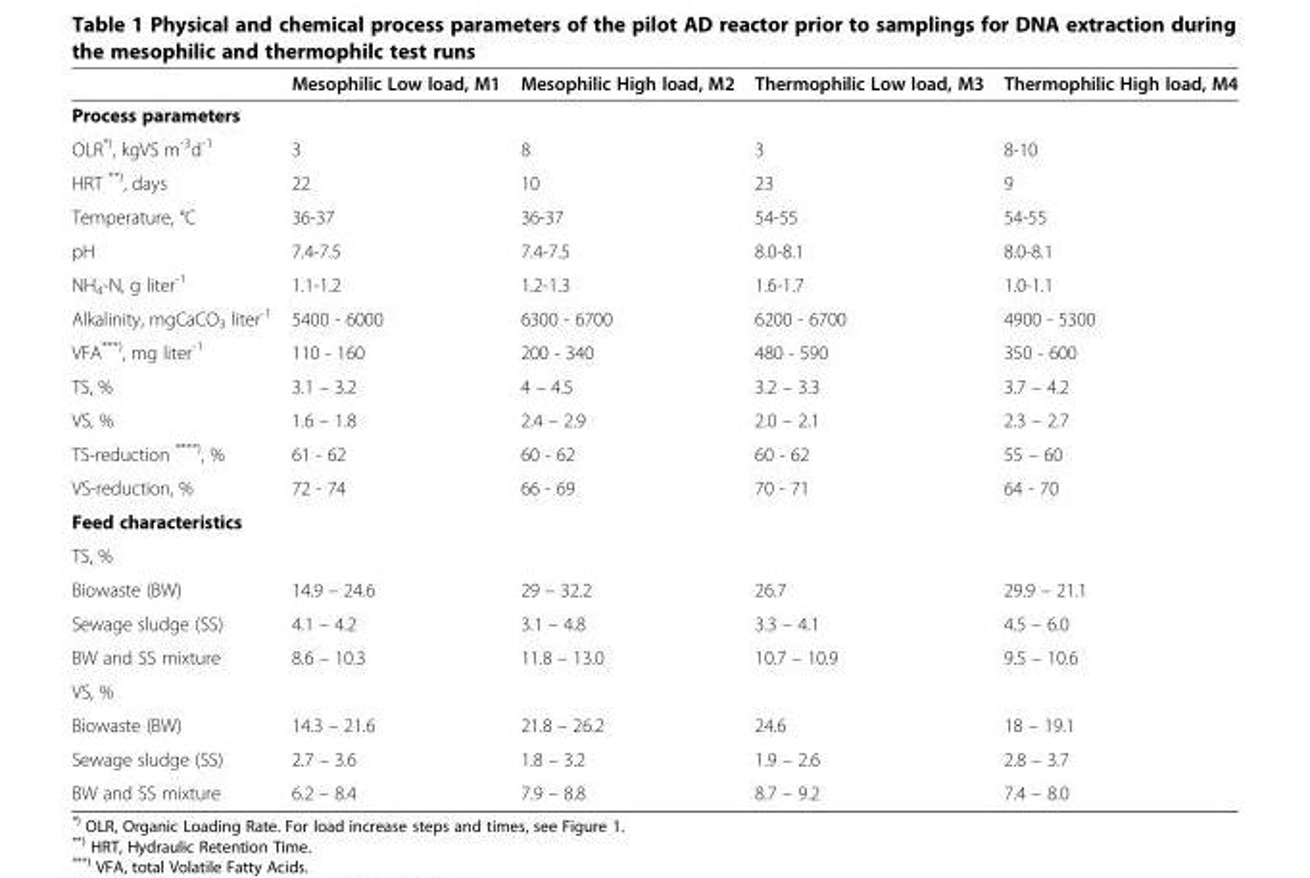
<table><thead><tr><td></td><td>Mesophilic Low load, M1</td><td>Mesophilic High load, M2</td><td>Thermophilic Low load, M3</td><td>Thermophilic High load, M4</td></tr></thead><tbody><tr><td colspan="5">Process parameters</td></tr><tr><td>OLR<sup>*)</sup>, kgVS m<sup>-3</sup>d<sup>-1</sup></td><td>3</td><td>8</td><td>3</td><td>8-10</td></tr><tr><td>HRT <sup>**)</sup>, days</td><td>22</td><td>10</td><td>23</td><td>9</td></tr><tr><td>Temperature, °C</td><td>36-37</td><td>36-37</td><td>54-55</td><td>54-55</td></tr><tr><td>pH</td><td>7.4-7.5</td><td>7.4-7.5</td><td>8.0-8.1</td><td>8.0-8.1</td></tr><tr><td>NH<sub>4</sub>-N, g liter<sup>-1</sup></td><td>1.1-1.2</td><td>1.2-1.3</td><td>1.6-1.7</td><td>1.0-1.1</td></tr><tr><td>Alkalinity, mgCaCO<sub>3</sub> liter<sup>-1</sup></td><td>5400 - 6000</td><td>6300 - 6700</td><td>6200 - 6700</td><td>4900 - 5300</td></tr><tr><td>VFA<sup>***)</sup>, mg liter<sup>-1</sup></td><td>110 - 160</td><td>200 - 340</td><td>480 - 590</td><td>350 - 600</td></tr><tr><td>TS, %</td><td>3.1 – 3.2</td><td>4 – 4.5</td><td>3.2 – 3.3</td><td>3.7 – 4.2</td></tr><tr><td>VS, %</td><td>1.6 – 1.8</td><td>2.4 – 2.9</td><td>2.0 – 2.1</td><td>2.3 – 2.7</td></tr><tr><td>TS-reduction <sup>****)</sup>, %</td><td>61 - 62</td><td>60 - 62</td><td>60 - 62</td><td>55 – 60</td></tr><tr><td>VS-reduction, %</td><td>72 - 74</td><td>66 - 69</td><td>70 - 71</td><td>64 - 70</td></tr><tr><td colspan="5">Feed characteristics</td></tr><tr><td colspan="5">TS, %</td></tr><tr><td>Biowaste (BW)</td><td>14.9 – 24.6</td><td>29 – 32.2</td><td>26.7</td><td>29.9 – 21.1</td></tr><tr><td>Sewage sludge (SS)</td><td>4.1 – 4.2</td><td>3.1 – 4.8</td><td>3.3 – 4.1</td><td>4.5 – 6.0</td></tr><tr><td>BW and SS mixture</td><td>8.6 – 10.3</td><td>11.8 – 13.0</td><td>10.7 – 10.9</td><td>9.5 – 10.6</td></tr><tr><td colspan="5">VS, %</td></tr><tr><td>Biowaste (BW)</td><td>14.3 – 21.6</td><td>21.8 – 26.2</td><td>24.6</td><td>18 – 19.1</td></tr><tr><td>Sewage sludge (SS)</td><td>2.7 – 3.6</td><td>1.8 – 3.2</td><td>1.9 – 2.6</td><td>2.8 – 3.7</td></tr><tr><td>BW and SS mixture</td><td>6.2 – 8.4</td><td>7.9 – 8.8</td><td>8.7 – 9.2</td><td>7.4 – 8.0</td></tr></tbody></table>